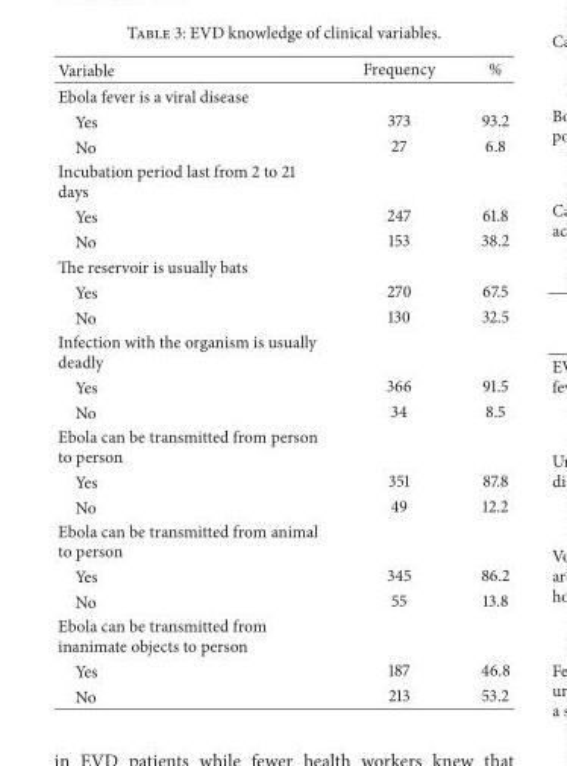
<table><thead><tr><td>Variable</td><td>Frequency</td><td>%</td></tr></thead><tbody><tr><td colspan="3">Ebola fever is a viral disease</td></tr><tr><td>Yes</td><td>373</td><td>93.2</td></tr><tr><td>No</td><td>27</td><td>6.8</td></tr><tr><td colspan="3">Incubation period last from 2 to 21 days</td></tr><tr><td>Yes</td><td>247</td><td>61.8</td></tr><tr><td>No</td><td>153</td><td>38.2</td></tr><tr><td colspan="3">The reservoir is usually bats</td></tr><tr><td>Yes</td><td>270</td><td>67.5</td></tr><tr><td>No</td><td>130</td><td>32.5</td></tr><tr><td colspan="3">Infection with the organism is usually deadly</td></tr><tr><td>Yes</td><td>366</td><td>91.5</td></tr><tr><td>No</td><td>34</td><td>8.5</td></tr><tr><td colspan="3">Ebola can be transmitted from person to person</td></tr><tr><td>Yes</td><td>351</td><td>87.8</td></tr><tr><td>No</td><td>49</td><td>12.2</td></tr><tr><td colspan="3">Ebola can be transmitted from animal to person</td></tr><tr><td>Yes</td><td>345</td><td>86.2</td></tr><tr><td>No</td><td>55</td><td>13.8</td></tr><tr><td colspan="3">Ebola can be transmitted from inanimate objects to person</td></tr><tr><td>Yes</td><td>187</td><td>46.8</td></tr><tr><td>No</td><td>213</td><td>53.2</td></tr></tbody></table>